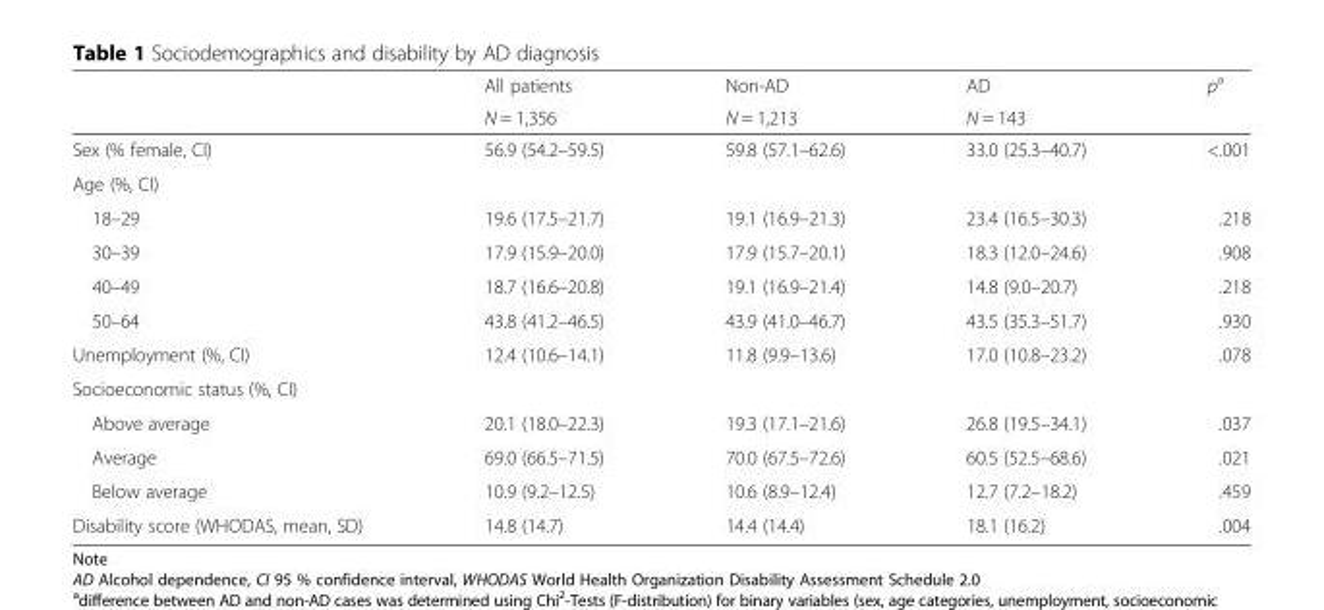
<table><thead><tr><td rowspan="2"></td><td rowspan="2">All patients N = 1,356</td><td rowspan="2">Non-AD N = 1,213</td><td rowspan="2">AD N = 143</td><td rowspan="2">p<sup>a</sup></td></tr><tr></tr></thead><tbody><tr><td>Sex (% female, CI)</td><td>56.9 (54.2–59.5)</td><td>59.8 (57.1–62.6)</td><td>33.0 (25.3–40.7)</td><td>&lt;.001</td></tr><tr><td colspan="5">Age (%, CI)</td></tr><tr><td>18–29</td><td>19.6 (17.5–21.7)</td><td>19.1 (16.9–21.3)</td><td>23.4 (16.5–30.3)</td><td>.218</td></tr><tr><td>30–39</td><td>17.9 (15.9–20.0)</td><td>17.9 (15.7–20.1)</td><td>18.3 (12.0–24.6)</td><td>.908</td></tr><tr><td>40–49</td><td>18.7 (16.6–20.8)</td><td>19.1 (16.9–21.4)</td><td>14.8 (9.0–20.7)</td><td>.218</td></tr><tr><td>50–64</td><td>43.8 (41.2–46.5)</td><td>43.9 (41.0–46.7)</td><td>43.5 (35.3–51.7)</td><td>.930</td></tr><tr><td>Unemployment (%, CI)</td><td>12.4 (10.6–14.1)</td><td>11.8 (9.9–13.6)</td><td>17.0 (10.8–23.2)</td><td>.078</td></tr><tr><td colspan="5">Socioeconomic status (%, CI)</td></tr><tr><td>Above average</td><td>20.1 (18.0–22.3)</td><td>19.3 (17.1–21.6)</td><td>26.8 (19.5–34.1)</td><td>.037</td></tr><tr><td>Average</td><td>69.0 (66.5–71.5)</td><td>70.0 (67.5–72.6)</td><td>60.5 (52.5–68.6)</td><td>.021</td></tr><tr><td>Below average</td><td>10.9 (9.2–12.5)</td><td>10.6 (8.9–12.4)</td><td>12.7 (7.2–18.2)</td><td>.459</td></tr><tr><td>Disability score (WHODAS, mean, SD)</td><td>14.8 (14.7)</td><td>14.4 (14.4)</td><td>18.1 (16.2)</td><td>.004</td></tr></tbody></table>